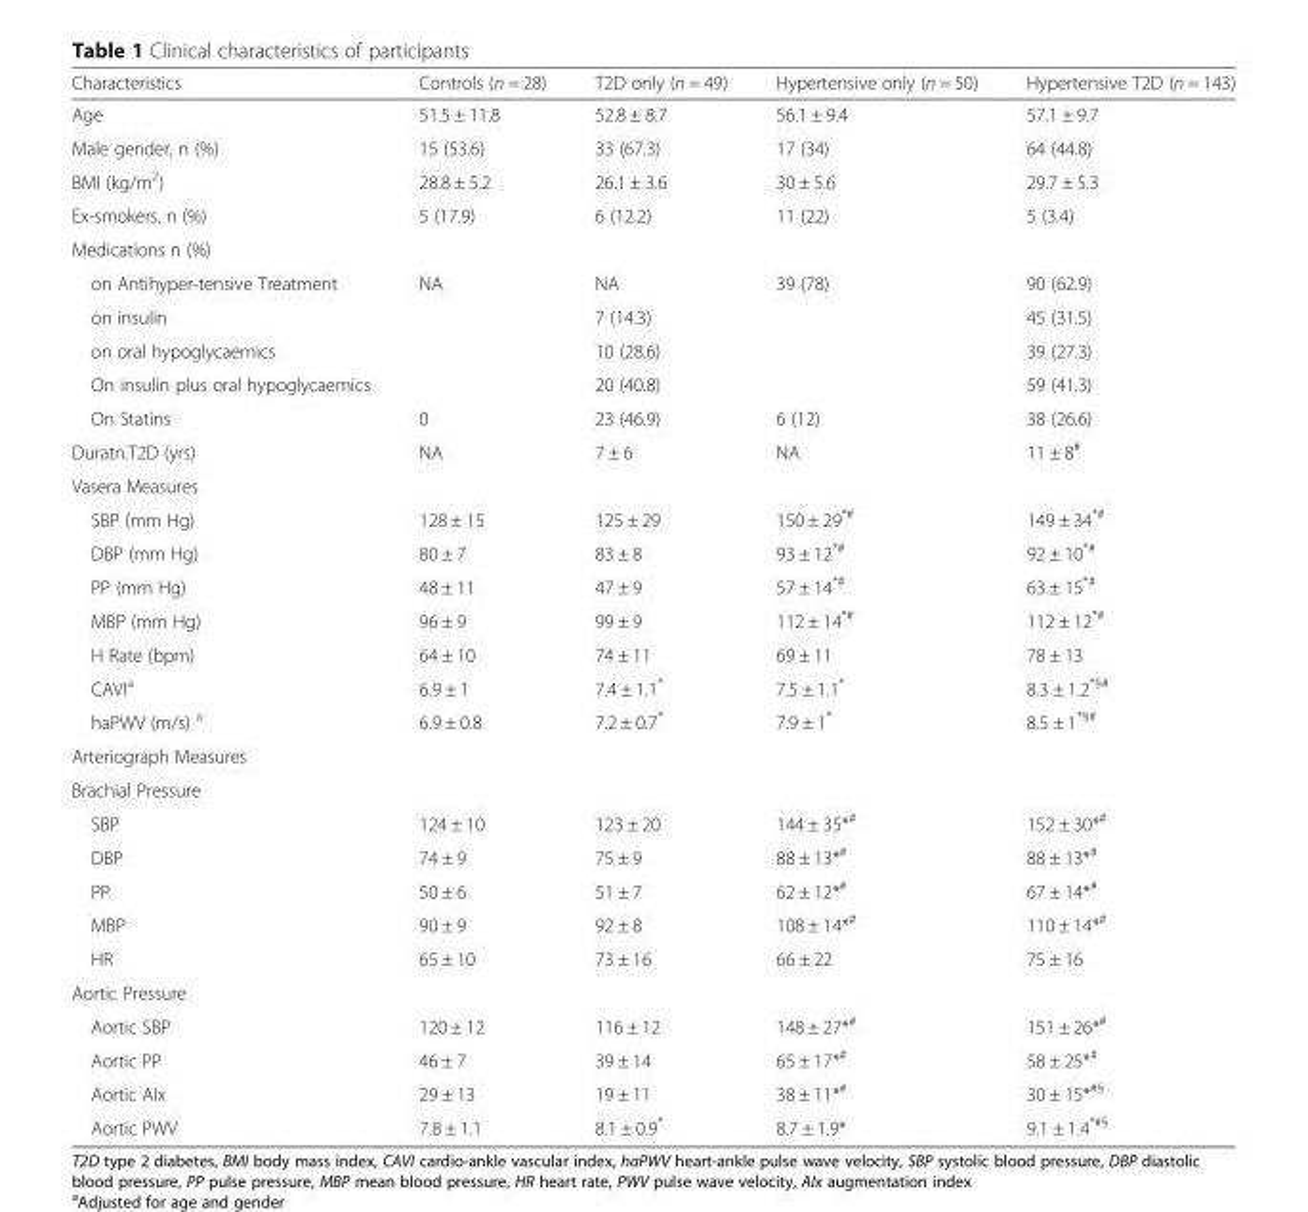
<table><thead><tr><td>Characteristics</td><td>Controls (n = 28)</td><td>T2D only (n = 49)</td><td>Hypertensive only (n = 50)</td><td>Hypertensive T2D (n = 143)</td></tr></thead><tbody><tr><td>Age</td><td>51.5 ± 11.8</td><td>52.8 ± 8.7</td><td>56.1 ± 9.4</td><td>57.1 ± 9.7</td></tr><tr><td>Male gender, n (%)</td><td>15 (53.6)</td><td>33 (67.3)</td><td>17 (34)</td><td>64 (44.8)</td></tr><tr><td>BMI (kg/m<sup>2</sup>)</td><td>28.8 ± 5.2</td><td>26.1 ± 3.6</td><td>30 ± 5.6</td><td>29.7 ± 5.3</td></tr><tr><td>Ex-smokers, n (%)</td><td>5 (17.9)</td><td>6 (12.2)</td><td>11 (22)</td><td>5 (3.4)</td></tr><tr><td colspan="5">Medications n (%)</td></tr><tr><td>on Antihyper-tensive Treatment</td><td>NA</td><td>NA</td><td>39 (78)</td><td>90 (62.9)</td></tr><tr><td>on insulin</td><td></td><td>7 (14.3)</td><td></td><td>45 (31.5)</td></tr><tr><td>on oral hypoglycaemics</td><td></td><td>10 (28.6)</td><td></td><td>39 (27.3)</td></tr><tr><td>On insulin plus oral hypoglycaemics</td><td></td><td>20 (40.8)</td><td></td><td>59 (41.3)</td></tr><tr><td>On Statins</td><td>0</td><td>23 (46.9)</td><td>6 (12)</td><td>38 (26.6)</td></tr><tr><td>Duratn.T2D (yrs)</td><td>NA</td><td>7 ± 6</td><td>NA</td><td>11 ± 8<sup>#</sup></td></tr><tr><td colspan="5">Vasera Measures</td></tr><tr><td>SBP (mm Hg)</td><td>128 ± 15</td><td>125 ± 29</td><td>150 ± 29<sup>*#</sup></td><td>149 ± 34<sup>*#</sup></td></tr><tr><td>DBP (mm Hg)</td><td>80 ± 7</td><td>83 ± 8</td><td>93 ± 12<sup>*#</sup></td><td>92 ± 10<sup>*#</sup></td></tr><tr><td>PP (mm Hg)</td><td>48 ± 11</td><td>47 ± 9</td><td>57 ± 14<sup>*#</sup></td><td>63 ± 15<sup>*#</sup></td></tr><tr><td>MBP (mm Hg)</td><td>96 ± 9</td><td>99 ± 9</td><td>112 ± 14<sup>*#</sup></td><td>112 ± 12<sup>*#</sup></td></tr><tr><td>H Rate (bpm)</td><td>64 ± 10</td><td>74 ± 11</td><td>69 ± 11</td><td>78 ± 13</td></tr><tr><td>CAVI<sup>a</sup></td><td>6.9 ± 1</td><td>7.4 ± 1.1*</td><td>7.5 ± 1.1*</td><td>8.3 ± 1.2<sup>*§#</sup></td></tr><tr><td>haPWV (m/s) <sup>a</sup></td><td>6.9 ± 0.8</td><td>7.2 ± 0.7*</td><td>7.9 ± 1*</td><td>8.5 ± 1<sup>*§#</sup></td></tr><tr><td colspan="5">Arteriograph Measures</td></tr><tr><td colspan="5">Brachial Pressure</td></tr><tr><td>SBP</td><td>124 ± 10</td><td>123 ± 20</td><td>144 ± 35*<sup>#</sup></td><td>152 ± 30*<sup>#</sup></td></tr><tr><td>DBP</td><td>74 ± 9</td><td>75 ± 9</td><td>88 ± 13*<sup>#</sup></td><td>88 ± 13*<sup>#</sup></td></tr><tr><td>PP</td><td>50 ± 6</td><td>51 ± 7</td><td>62 ± 12*<sup>#</sup></td><td>67 ± 14*<sup>#</sup></td></tr><tr><td>MBP</td><td>90 ± 9</td><td>92 ± 8</td><td>108 ± 14*<sup>#</sup></td><td>110 ± 14*<sup>#</sup></td></tr><tr><td>HR</td><td>65 ± 10</td><td>73 ± 16</td><td>66 ± 22</td><td>75 ± 16</td></tr><tr><td colspan="5">Aortic Pressure</td></tr><tr><td>Aortic SBP</td><td>120 ± 12</td><td>116 ± 12</td><td>148 ± 27*<sup>#</sup></td><td>151 ± 26*<sup>#</sup></td></tr><tr><td>Aortic PP</td><td>46 ± 7</td><td>39 ± 14</td><td>65 ± 17*<sup>#</sup></td><td>58 ± 25*<sup>#</sup></td></tr><tr><td>Aortic AIx</td><td>29 ± 13</td><td>19 ± 11</td><td>38 ± 11*<sup>#</sup></td><td>30 ± 15*<sup>#§</sup></td></tr><tr><td>Aortic PWV</td><td>7.8 ± 1.1</td><td>8.1 ± 0.9*</td><td>8.7 ± 1.9*</td><td>9.1 ± 1.4<sup>*#§</sup></td></tr></tbody></table>